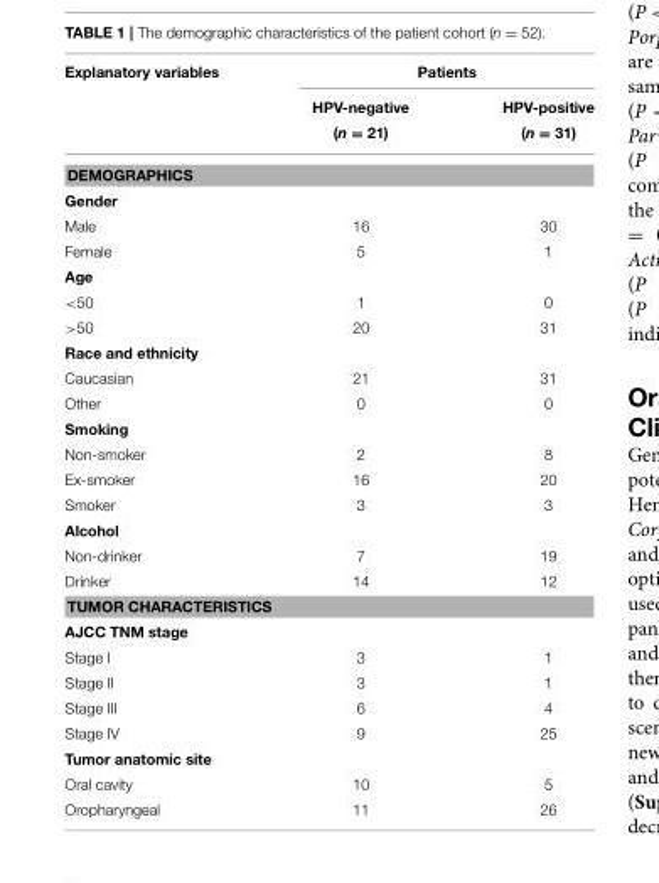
<table><thead><tr><td rowspan="3">Explanatory variables</td><td colspan="2">Patients</td></tr><tr><td rowspan="2">HPV-negative (n = 21)</td><td rowspan="2">HPV-positive (n = 31)</td></tr><tr></tr></thead><tbody><tr><td colspan="3">DEMOGRAPHICS</td></tr><tr><td colspan="3">Gender</td></tr><tr><td>Male</td><td>16</td><td>30</td></tr><tr><td>Female</td><td>5</td><td>1</td></tr><tr><td colspan="3">Age</td></tr><tr><td>&lt;50</td><td>1</td><td>0</td></tr><tr><td>&gt;50</td><td>20</td><td>31</td></tr><tr><td colspan="3">Race and ethnicity</td></tr><tr><td>Caucasian</td><td>21</td><td>31</td></tr><tr><td>Other</td><td>0</td><td>0</td></tr><tr><td colspan="3">Smoking</td></tr><tr><td>Non-smoker</td><td>2</td><td>8</td></tr><tr><td>Ex-smoker</td><td>16</td><td>20</td></tr><tr><td>Smoker</td><td>3</td><td>3</td></tr><tr><td colspan="3">Alcohol</td></tr><tr><td>Non-drinker</td><td>7</td><td>19</td></tr><tr><td>Drinker</td><td>14</td><td>12</td></tr><tr><td colspan="3">TUMOR CHARACTERISTICS</td></tr><tr><td colspan="3">AJCC TNM stage</td></tr><tr><td>Stage I</td><td>3</td><td>1</td></tr><tr><td>Stage II</td><td>3</td><td>1</td></tr><tr><td>Stage III</td><td>6</td><td>4</td></tr><tr><td>Stage IV</td><td>9</td><td>25</td></tr><tr><td colspan="3">Tumor anatomic site</td></tr><tr><td>Oral cavity</td><td>10</td><td>5</td></tr><tr><td>Oropharyngeal</td><td>11</td><td>26</td></tr></tbody></table>